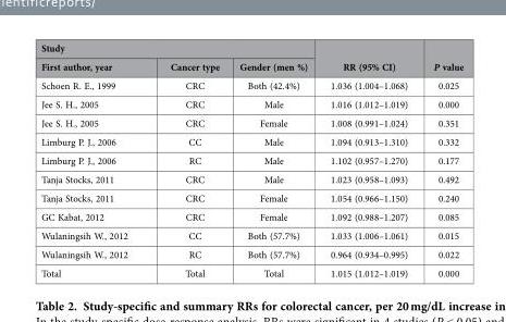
<table><thead><tr><td colspan="3">Study</td><td rowspan="2">RR (95% CI)</td><td rowspan="2">P value</td></tr><tr><td>First author, year</td><td>Cancer type</td><td>Gender (men %)</td></tr></thead><tbody><tr><td>Schoen R. E., 1999</td><td>CRC</td><td>Both (42.4%)</td><td>1.036 (1.004–1.068)</td><td>0.025</td></tr><tr><td>Jee S. H., 2005</td><td>CRC</td><td>Male</td><td>1.016 (1.012–1.019)</td><td>0.000</td></tr><tr><td>Jee S. H., 2005</td><td>CRC</td><td>Female</td><td>1.008 (0.991–1.024)</td><td>0.351</td></tr><tr><td>Limburg P. J., 2006</td><td>CC</td><td>Male</td><td>1.094 (0.913–1.310)</td><td>0.332</td></tr><tr><td>Limburg P. J., 2006</td><td>RC</td><td>Male</td><td>1.102 (0.957–1.270)</td><td>0.177</td></tr><tr><td>Tanja Stocks, 2011</td><td>CRC</td><td>Male</td><td>1.023 (0.958–1.093)</td><td>0.492</td></tr><tr><td>Tanja Stocks, 2011</td><td>CRC</td><td>Female</td><td>1.054 (0.966–1.150)</td><td>0.240</td></tr><tr><td>GC Kabat, 2012</td><td>CRC</td><td>Female</td><td>1.092 (0.988–1.207)</td><td>0.085</td></tr><tr><td>Wulaningsih W., 2012</td><td>CC</td><td>Both (57.7%)</td><td>1.033 (1.006–1.061)</td><td>0.015</td></tr><tr><td>Wulaningsih W., 2012</td><td>RC</td><td>Both (57.7%)</td><td>0.964 (0.934–0.995)</td><td>0.022</td></tr><tr><td>Total</td><td>Total</td><td>Total</td><td>1.015 (1.012–1.019)</td><td>0.000</td></tr></tbody></table>